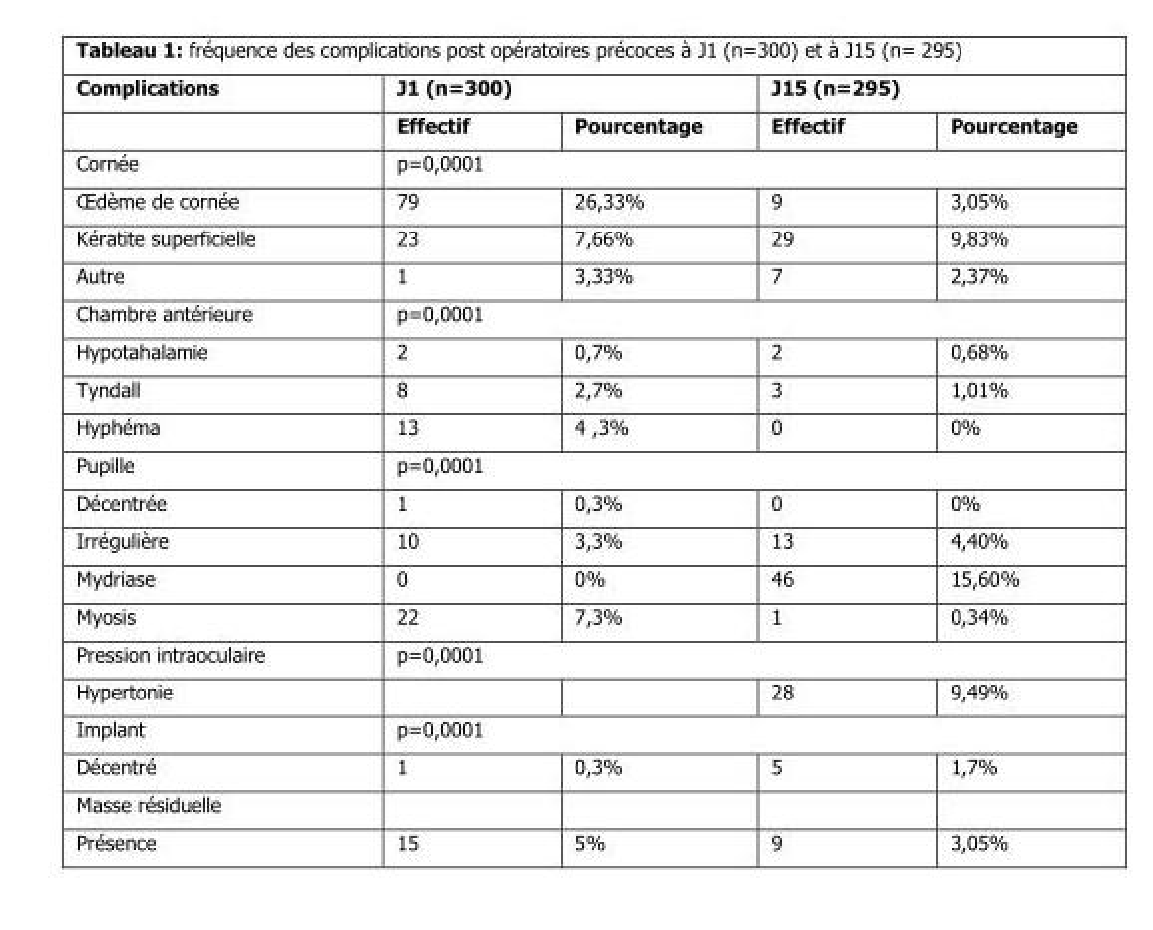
<table><thead><tr><td rowspan="2">Complications</td><td colspan="2">J1 (n=300)</td><td colspan="2">J15 (n=295)</td></tr><tr><td>Effectif</td><td>Pourcentage</td><td>Effectif</td><td>Pourcentage</td></tr></thead><tbody><tr><td>Cornée</td><td colspan="4">p=0,0001</td></tr><tr><td>Œdème de cornée</td><td>79</td><td>26,33%</td><td>9</td><td>3,05%</td></tr><tr><td>Kératite superficielle</td><td>23</td><td>7,66%</td><td>29</td><td>9,83%</td></tr><tr><td>Autre</td><td>1</td><td>3,33%</td><td>7</td><td>2,37%</td></tr><tr><td>Chambre antérieure</td><td colspan="4">p=0,0001</td></tr><tr><td>Hypotahalamie</td><td>2</td><td>0,7%</td><td>2</td><td>0,68%</td></tr><tr><td>Tyndall</td><td>8</td><td>2,7%</td><td>3</td><td>1,01%</td></tr><tr><td>Hyphéma</td><td>13</td><td>4 ,3%</td><td>0</td><td>0%</td></tr><tr><td>Pupille</td><td colspan="4">p=0,0001</td></tr><tr><td>Décentrée</td><td>1</td><td>0,3%</td><td>0</td><td>0%</td></tr><tr><td>Irrégulière</td><td>10</td><td>3,3%</td><td>13</td><td>4,40%</td></tr><tr><td>Mydriase</td><td>0</td><td>0%</td><td>46</td><td>15,60%</td></tr><tr><td>Myosis</td><td>22</td><td>7,3%</td><td>1</td><td>0,34%</td></tr><tr><td>Pression intraoculaire</td><td colspan="4">p=0,0001</td></tr><tr><td>Hypertonie</td><td></td><td></td><td>28</td><td>9,49%</td></tr><tr><td>Implant</td><td colspan="4">p=0,0001</td></tr><tr><td>Décentré</td><td>1</td><td>0,3%</td><td>5</td><td>1,7%</td></tr><tr><td colspan="5">Masse résiduelle</td></tr><tr><td>Présence</td><td>15</td><td>5%</td><td>9</td><td>3,05%</td></tr></tbody></table>